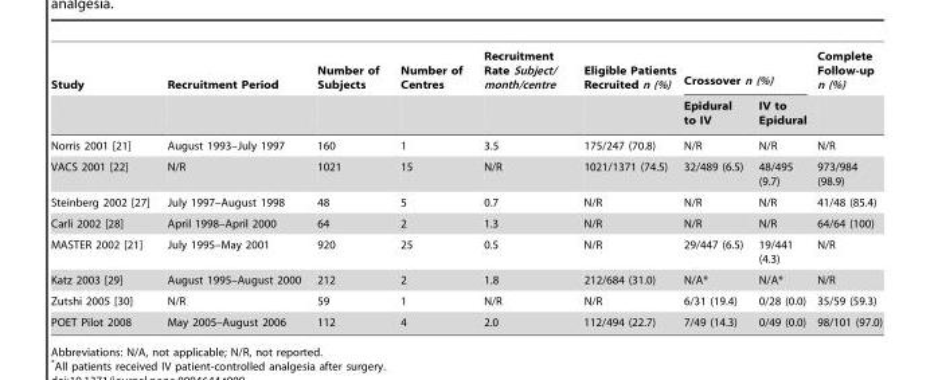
<table><thead><tr><td rowspan="2">Study</td><td rowspan="2">Recruitment Period</td><td rowspan="2">Number of Subjects</td><td rowspan="2">Number of Centres</td><td rowspan="2">Recruitment Rate Subject/ month/centre</td><td rowspan="2">Eligible Patients Recruited n (%)</td><td colspan="2">Crossover n (%)</td><td rowspan="2">Complete Follow-up n (%)</td></tr><tr><td>Epidural to IV</td><td>IV to Epidural</td></tr></thead><tbody><tr><td>Norris 2001 [21]</td><td>August 1993–July 1997</td><td>160</td><td>1</td><td>3.5</td><td>175/247 (70.8)</td><td>N/R</td><td>N/R</td><td>N/R</td></tr><tr><td>VACS 2001 [22]</td><td>N/R</td><td>1021</td><td>15</td><td>N/R</td><td>1021/1371 (74.5)</td><td>32/489 (6.5)</td><td>48/495 (9.7)</td><td>973/984 (98.9)</td></tr><tr><td>Steinberg 2002 [27]</td><td>July 1997–August 1998</td><td>48</td><td>5</td><td>0.7</td><td>N/R</td><td>N/R</td><td>N/R</td><td>41/48 (85.4)</td></tr><tr><td>Carli 2002 [28]</td><td>April 1998–April 2000</td><td>64</td><td>2</td><td>1.3</td><td>N/R</td><td>N/R</td><td>N/R</td><td>64/64 (100)</td></tr><tr><td>MASTER 2002 [21]</td><td>July 1995–May 2001</td><td>920</td><td>25</td><td>0.5</td><td>N/R</td><td>29/447 (6.5)</td><td>19/441 (4.3)</td><td>N/R</td></tr><tr><td>Katz 2003 [29]</td><td>August 1995–August 2000</td><td>212</td><td>2</td><td>1.8</td><td>212/684 (31.0)</td><td>N/A*</td><td>N/A*</td><td>N/R</td></tr><tr><td>Zutshi 2005 [30]</td><td>N/R</td><td>59</td><td>1</td><td>N/R</td><td>N/R</td><td>6/31 (19.4)</td><td>0/28 (0.0)</td><td>35/59 (59.3)</td></tr><tr><td>POET Pilot 2008</td><td>May 2005–August 2006</td><td>112</td><td>4</td><td>2.0</td><td>112/494 (22.7)</td><td>7/49 (14.3)</td><td>0/49 (0.0)</td><td>98/101 (97.0)</td></tr></tbody></table>